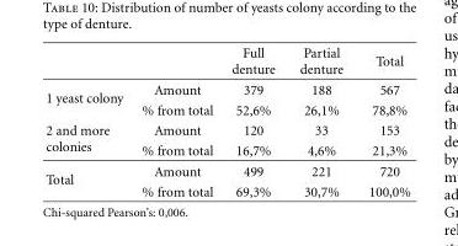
<table><thead><tr><td></td><td></td><td>Full denture</td><td>Partial denture</td><td>Total</td></tr></thead><tbody><tr><td rowspan="2">1 yeast colony</td><td>Amount</td><td>379</td><td>188</td><td>567</td></tr><tr><td>% from total</td><td>52,6%</td><td>26,1%</td><td>78,8%</td></tr><tr><td rowspan="2">2 and more colonies</td><td>Amount</td><td>120</td><td>33</td><td>153</td></tr><tr><td>% from total</td><td>16,7%</td><td>4,6%</td><td>21,3%</td></tr><tr><td rowspan="2">Total</td><td>Amount</td><td>499</td><td>221</td><td>720</td></tr><tr><td>% from total</td><td>69,3%</td><td>30,7%</td><td>100,0%</td></tr></tbody></table>